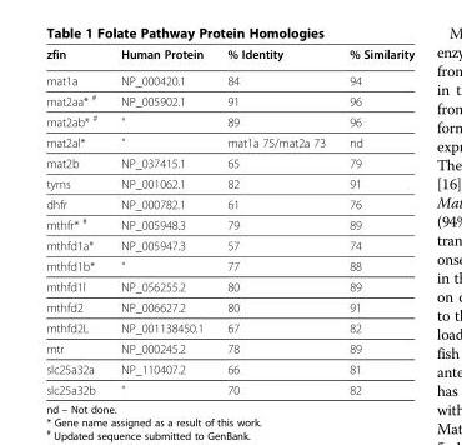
<table><thead><tr><td>zfin</td><td>Human Protein</td><td>% Identity</td><td>% Similarity</td></tr></thead><tbody><tr><td>mat1a</td><td>NP_000420.1</td><td>84</td><td>94</td></tr><tr><td>mat2aa* <sup>#</sup></td><td>NP_005902.1</td><td>91</td><td>96</td></tr><tr><td>mat2ab* <sup>#</sup></td><td>&quot;</td><td>89</td><td>96</td></tr><tr><td>mat2al*</td><td>&quot;</td><td>mat1a 75/mat2a 73</td><td>nd</td></tr><tr><td>mat2b</td><td>NP_037415.1</td><td>65</td><td>79</td></tr><tr><td>tyms</td><td>NP_001062.1</td><td>82</td><td>91</td></tr><tr><td>dhfr</td><td>NP_000782.1</td><td>61</td><td>76</td></tr><tr><td>mthfr* <sup>#</sup></td><td>NP_005948.3</td><td>79</td><td>89</td></tr><tr><td>mthfd1a*</td><td>NP_005947.3</td><td>57</td><td>74</td></tr><tr><td>mthfd1b*</td><td>&quot;</td><td>77</td><td>88</td></tr><tr><td>mthfd1l</td><td>NP_056255.2</td><td>80</td><td>89</td></tr><tr><td>mthfd2</td><td>NP_006627.2</td><td>80</td><td>91</td></tr><tr><td>mthfd2L</td><td>NP_001138450.1</td><td>67</td><td>82</td></tr><tr><td>mtr</td><td>NP_000245.2</td><td>78</td><td>89</td></tr><tr><td>slc25a32a</td><td>NP_110407.2</td><td>66</td><td>81</td></tr><tr><td>slc25a32b</td><td>&quot;</td><td>70</td><td>82</td></tr></tbody></table>